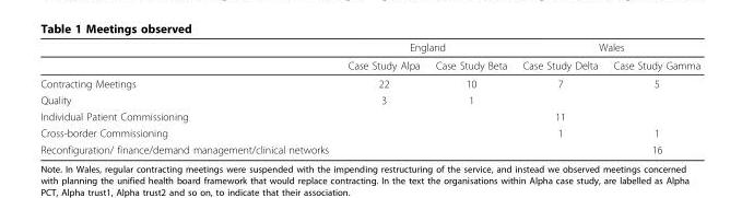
<table><thead><tr><td rowspan="2"></td><td colspan="2">England</td><td colspan="2">Wales</td></tr><tr><td>Case Study Alpa</td><td>Case Study Beta</td><td>Case Study Delta</td><td>Case Study Gamma</td></tr></thead><tbody><tr><td>Contracting Meetings</td><td>22</td><td>10</td><td>7</td><td>5</td></tr><tr><td>Quality</td><td>3</td><td>1</td><td></td><td></td></tr><tr><td>Individual Patient Commissioning</td><td></td><td></td><td>11</td><td></td></tr><tr><td>Cross-border Commissioning</td><td></td><td></td><td>1</td><td>1</td></tr><tr><td>Reconfiguration/ finance/demand management/clinical networks</td><td></td><td></td><td></td><td>16</td></tr></tbody></table>